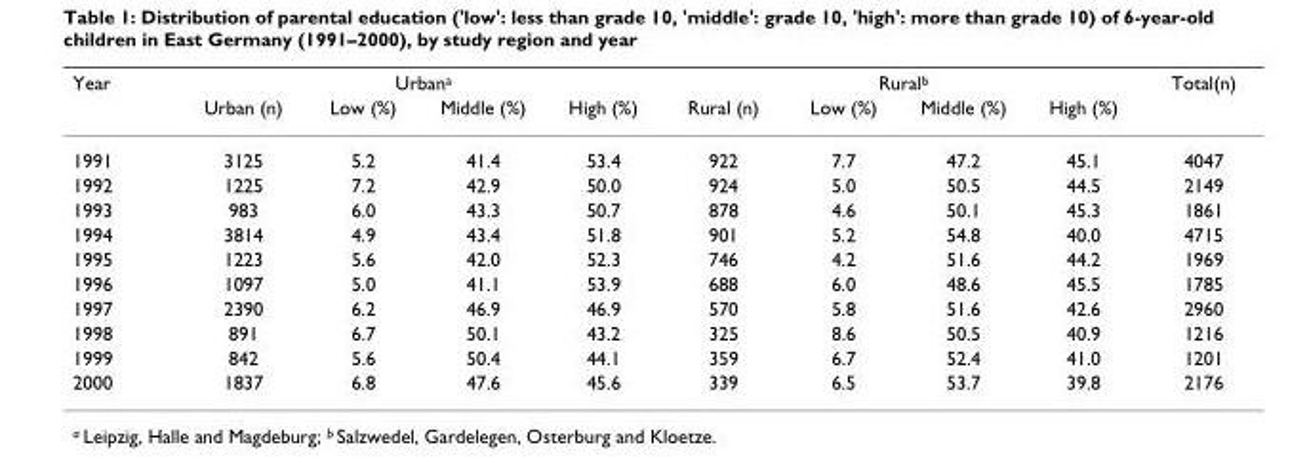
<table><thead><tr><td rowspan="2">Year</td><td colspan="4">Urban<sup>a</sup></td><td colspan="4">Rural<sup>b</sup></td><td rowspan="2">Total(n)</td></tr><tr><td>Urban (n)</td><td>Low (%)</td><td>Middle (%)</td><td>High (%)</td><td>Rural (n)</td><td>Low (%)</td><td>Middle (%)</td><td>High (%)</td></tr></thead><tbody><tr><td>1991</td><td>3125</td><td>5.2</td><td>41.4</td><td>53.4</td><td>922</td><td>7.7</td><td>47.2</td><td>45.1</td><td>4047</td></tr><tr><td>1992</td><td>1225</td><td>7.2</td><td>42.9</td><td>50.0</td><td>924</td><td>5.0</td><td>50.5</td><td>44.5</td><td>2149</td></tr><tr><td>1993</td><td>983</td><td>6.0</td><td>43.3</td><td>50.7</td><td>878</td><td>4.6</td><td>50.1</td><td>45.3</td><td>1861</td></tr><tr><td>1994</td><td>3814</td><td>4.9</td><td>43.4</td><td>51.8</td><td>901</td><td>5.2</td><td>54.8</td><td>40.0</td><td>4715</td></tr><tr><td>1995</td><td>1223</td><td>5.6</td><td>42.0</td><td>52.3</td><td>746</td><td>4.2</td><td>51.6</td><td>44.2</td><td>1969</td></tr><tr><td>1996</td><td>1097</td><td>5.0</td><td>41.1</td><td>53.9</td><td>688</td><td>6.0</td><td>48.6</td><td>45.5</td><td>1785</td></tr><tr><td>1997</td><td>2390</td><td>6.2</td><td>46.9</td><td>46.9</td><td>570</td><td>5.8</td><td>51.6</td><td>42.6</td><td>2960</td></tr><tr><td>1998</td><td>891</td><td>6.7</td><td>50.1</td><td>43.2</td><td>325</td><td>8.6</td><td>50.5</td><td>40.9</td><td>1216</td></tr><tr><td>1999</td><td>842</td><td>5.6</td><td>50.4</td><td>44.1</td><td>359</td><td>6.7</td><td>52.4</td><td>41.0</td><td>1201</td></tr><tr><td>2000</td><td>1837</td><td>6.8</td><td>47.6</td><td>45.6</td><td>339</td><td>6.5</td><td>53.7</td><td>39.8</td><td>2176</td></tr></tbody></table>